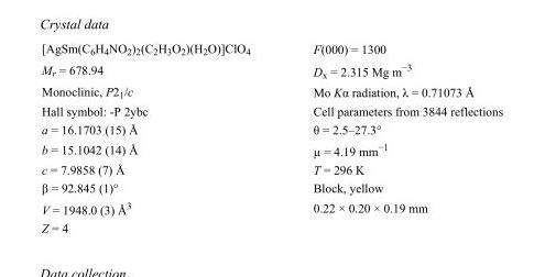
<table><tbody><tr><td>[AgSm(C<sub>6</sub>H<sub>4</sub>NO<sub>2</sub>)<sub>2</sub>(C<sub>2</sub>H<sub>3</sub>O<sub>2</sub>)(H<sub>2</sub>O)]ClO<sub>4</sub></td><td>F(000) = 1300</td></tr><tr><td>M<sub>r</sub> = 678.94</td><td>D<sub>x</sub> = 2.315 Mg m<sup>−3</sup></td></tr><tr><td>Monoclinic, P2<sub>1</sub>/c</td><td>Mo Kα radiation, λ = 0.71073 Å</td></tr><tr><td>Hall symbol: -P 2ybc</td><td>Cell parameters from 3844 reflections</td></tr><tr><td>a = 16.1703 (15) Å</td><td>θ = 2.5–27.3°</td></tr><tr><td>b = 15.1042 (14) Å</td><td>µ = 4.19 mm<sup>−1</sup></td></tr><tr><td>c = 7.9858 (7) Å</td><td>T = 296 K</td></tr><tr><td>β = 92.845 (1)°</td><td>Block, yellow</td></tr><tr><td>V = 1948.0 (3) Å<sup>3</sup></td><td>0.22 × 0.20 × 0.19 mm</td></tr><tr><td>Z = 4</td><td></td></tr></tbody></table>